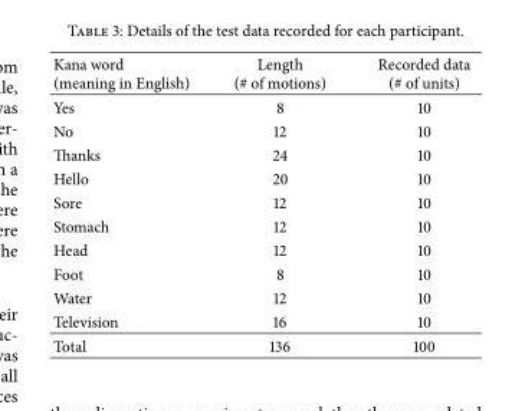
<table><thead><tr><td>Kana word (meaning in English)</td><td>Length (# of motions)</td><td>Recorded data (# of units)</td></tr></thead><tbody><tr><td>Yes</td><td>8</td><td>10</td></tr><tr><td>No</td><td>12</td><td>10</td></tr><tr><td>Thanks</td><td>24</td><td>10</td></tr><tr><td>Hello</td><td>20</td><td>10</td></tr><tr><td>Sore</td><td>12</td><td>10</td></tr><tr><td>Stomach</td><td>12</td><td>10</td></tr><tr><td>Head</td><td>12</td><td>10</td></tr><tr><td>Foot</td><td>8</td><td>10</td></tr><tr><td>Water</td><td>12</td><td>10</td></tr><tr><td>Television</td><td>16</td><td>10</td></tr><tr><td>Total</td><td>136</td><td>100</td></tr></tbody></table>